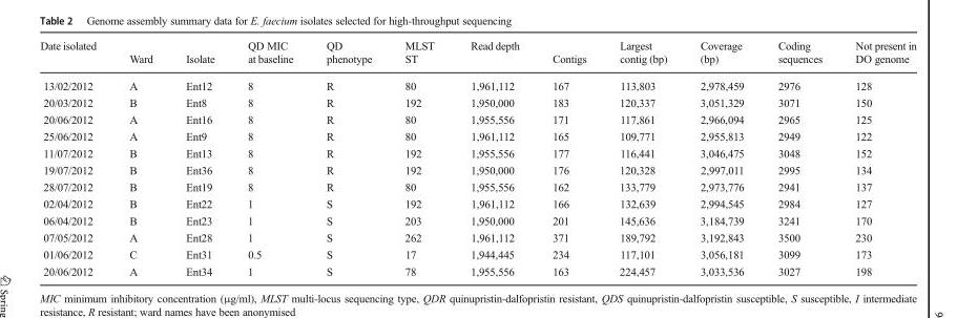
<table><thead><tr><td>Date isolated</td><td>Ward</td><td>Isolate</td><td>QD MIC at baseline</td><td>QD phenotype</td><td>MLST ST</td><td>Read depth</td><td>Contigs</td><td>Largest contig (bp)</td><td>Coverage (bp)</td><td>Coding sequences</td><td>Not present in DO genome</td></tr></thead><tbody><tr><td>13/02/2012</td><td>A</td><td>Ent12</td><td>8</td><td>R</td><td>80</td><td>1,961,112</td><td>167</td><td>113,803</td><td>2,978,459</td><td>2976</td><td>128</td></tr><tr><td>20/03/2012</td><td>B</td><td>Ent8</td><td>8</td><td>R</td><td>192</td><td>1,950,000</td><td>183</td><td>120,337</td><td>3,051,329</td><td>3071</td><td>150</td></tr><tr><td>20/06/2012</td><td>A</td><td>Ent16</td><td>8</td><td>R</td><td>80</td><td>1,955,556</td><td>171</td><td>117,861</td><td>2,966,094</td><td>2965</td><td>125</td></tr><tr><td>25/06/2012</td><td>A</td><td>Ent9</td><td>8</td><td>R</td><td>80</td><td>1,961,112</td><td>165</td><td>109,771</td><td>2,955,813</td><td>2949</td><td>122</td></tr><tr><td>11/07/2012</td><td>B</td><td>Ent13</td><td>8</td><td>R</td><td>192</td><td>1,955,556</td><td>177</td><td>116,441</td><td>3,046,475</td><td>3048</td><td>152</td></tr><tr><td>19/07/2012</td><td>B</td><td>Ent36</td><td>8</td><td>R</td><td>192</td><td>1,950,000</td><td>176</td><td>120,328</td><td>2,997,011</td><td>2995</td><td>134</td></tr><tr><td>28/07/2012</td><td>B</td><td>Ent19</td><td>8</td><td>R</td><td>80</td><td>1,955,556</td><td>162</td><td>133,779</td><td>2,973,776</td><td>2941</td><td>137</td></tr><tr><td>02/04/2012</td><td>B</td><td>Ent22</td><td>1</td><td>S</td><td>192</td><td>1,961,112</td><td>166</td><td>132,639</td><td>2,994,545</td><td>2984</td><td>127</td></tr><tr><td>06/04/2012</td><td>B</td><td>Ent23</td><td>1</td><td>S</td><td>203</td><td>1,950,000</td><td>201</td><td>145,636</td><td>3,184,739</td><td>3241</td><td>170</td></tr><tr><td>07/05/2012</td><td>A</td><td>Ent28</td><td>1</td><td>S</td><td>262</td><td>1,961,112</td><td>371</td><td>189,792</td><td>3,192,843</td><td>3500</td><td>230</td></tr><tr><td>01/06/2012</td><td>C</td><td>Ent31</td><td>0.5</td><td>S</td><td>17</td><td>1,944,445</td><td>234</td><td>117,101</td><td>3,056,181</td><td>3099</td><td>173</td></tr><tr><td>20/06/2012</td><td>A</td><td>Ent34</td><td>1</td><td>S</td><td>78</td><td>1,955,556</td><td>163</td><td>224,457</td><td>3,033,536</td><td>3027</td><td>198</td></tr></tbody></table>